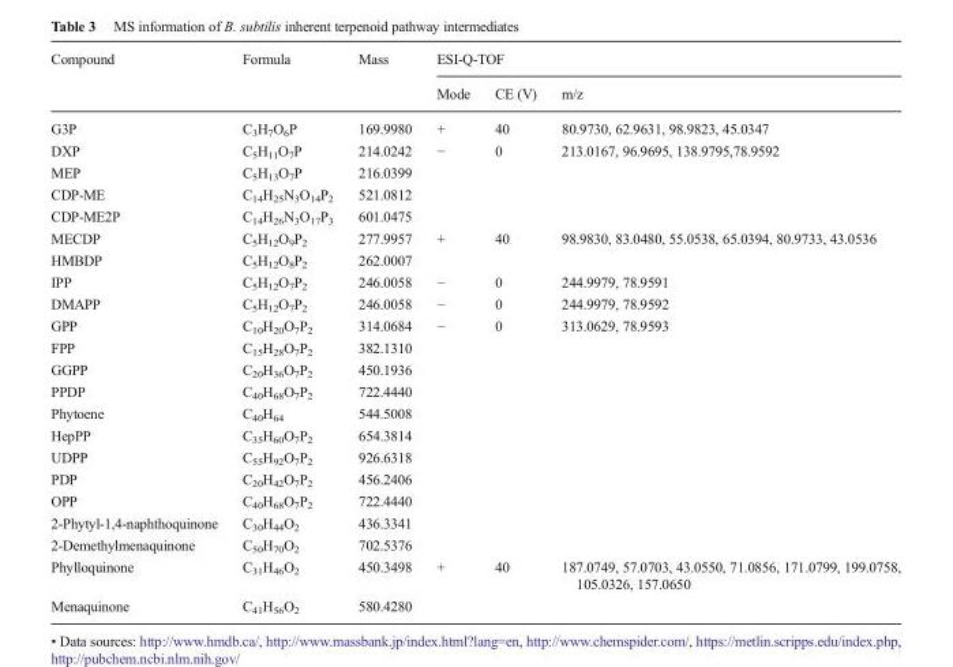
<table><thead><tr><td rowspan="2">Compound</td><td rowspan="2">Formula</td><td rowspan="2">Mass</td><td colspan="3">ESI-Q-TOF</td></tr><tr><td>Mode</td><td>CE (V)</td><td>m/z</td></tr></thead><tbody><tr><td>G3P</td><td>C<sub>3</sub>H<sub>7</sub>O<sub>6</sub>P</td><td>169.9980</td><td>+</td><td>40</td><td>80.9730, 62.9631, 98.9823, 45.0347</td></tr><tr><td>DXP</td><td>C<sub>5</sub>H<sub>11</sub>O<sub>7</sub>P</td><td>214.0242</td><td>−</td><td>0</td><td>213.0167, 96.9695, 138.9795,78.9592</td></tr><tr><td>MEP</td><td>C<sub>5</sub>H<sub>13</sub>O<sub>7</sub>P</td><td>216.0399</td><td></td><td></td><td></td></tr><tr><td>CDP-ME</td><td>C<sub>14</sub>H<sub>25</sub>N<sub>3</sub>O<sub>14</sub>P<sub>2</sub></td><td>521.0812</td><td></td><td></td><td></td></tr><tr><td>CDP-ME2P</td><td>C<sub>14</sub>H<sub>26</sub>N<sub>3</sub>O<sub>17</sub>P<sub>3</sub></td><td>601.0475</td><td></td><td></td><td></td></tr><tr><td>MECDP</td><td>C<sub>5</sub>H<sub>12</sub>O<sub>9</sub>P<sub>2</sub></td><td>277.9957</td><td>+</td><td>40</td><td>98.9830, 83.0480, 55.0538, 65.0394, 80.9733, 43.0536</td></tr><tr><td>HMBDP</td><td>C<sub>5</sub>H<sub>12</sub>O<sub>8</sub>P<sub>2</sub></td><td>262.0007</td><td></td><td></td><td></td></tr><tr><td>IPP</td><td>C<sub>5</sub>H<sub>12</sub>O<sub>7</sub>P<sub>2</sub></td><td>246.0058</td><td>−</td><td>0</td><td>244.9979, 78.9591</td></tr><tr><td>DMAPP</td><td>C<sub>5</sub>H<sub>12</sub>O<sub>7</sub>P<sub>2</sub></td><td>246.0058</td><td>−</td><td>0</td><td>244.9979, 78.9592</td></tr><tr><td>GPP</td><td>C<sub>10</sub>H<sub>20</sub>O<sub>7</sub>P<sub>2</sub></td><td>314.0684</td><td>−</td><td>0</td><td>313.0629, 78.9593</td></tr><tr><td>FPP</td><td>C<sub>15</sub>H<sub>28</sub>O<sub>7</sub>P<sub>2</sub></td><td>382.1310</td><td></td><td></td><td></td></tr><tr><td>GGPP</td><td>C<sub>20</sub>H<sub>36</sub>O<sub>7</sub>P<sub>2</sub></td><td>450.1936</td><td></td><td></td><td></td></tr><tr><td>PPDP</td><td>C<sub>40</sub>H<sub>68</sub>O<sub>7</sub>P<sub>2</sub></td><td>722.4440</td><td></td><td></td><td></td></tr><tr><td>Phytoene</td><td>C<sub>40</sub>H<sub>64</sub></td><td>544.5008</td><td></td><td></td><td></td></tr><tr><td>HepPP</td><td>C<sub>35</sub>H<sub>60</sub>O<sub>7</sub>P<sub>2</sub></td><td>654.3814</td><td></td><td></td><td></td></tr><tr><td>UDPP</td><td>C<sub>55</sub>H<sub>92</sub>O<sub>7</sub>P<sub>2</sub></td><td>926.6318</td><td></td><td></td><td></td></tr><tr><td>PDP</td><td>C<sub>20</sub>H<sub>42</sub>O<sub>7</sub>P<sub>2</sub></td><td>456.2406</td><td></td><td></td><td></td></tr><tr><td>OPP</td><td>C<sub>40</sub>H<sub>68</sub>O<sub>7</sub>P<sub>2</sub></td><td>722.4440</td><td></td><td></td><td></td></tr><tr><td>2-Phytyl-1,4-naphthoquinone</td><td>C<sub>30</sub>H<sub>44</sub>O<sub>2</sub></td><td>436.3341</td><td></td><td></td><td></td></tr><tr><td>2-Demethylmenaquinone</td><td>C<sub>50</sub>H<sub>70</sub>O<sub>2</sub></td><td>702.5376</td><td></td><td></td><td></td></tr><tr><td>Phylloquinone</td><td>C<sub>31</sub>H<sub>46</sub>O<sub>2</sub></td><td>450.3498</td><td>+</td><td>40</td><td>187.0749, 57.0703, 43.0550, 71.0856, 171.0799, 199.0758, 105.0326, 157.0650</td></tr><tr><td>Menaquinone</td><td>C<sub>41</sub>H<sub>56</sub>O<sub>2</sub></td><td>580.4280</td><td></td><td></td><td></td></tr></tbody></table>